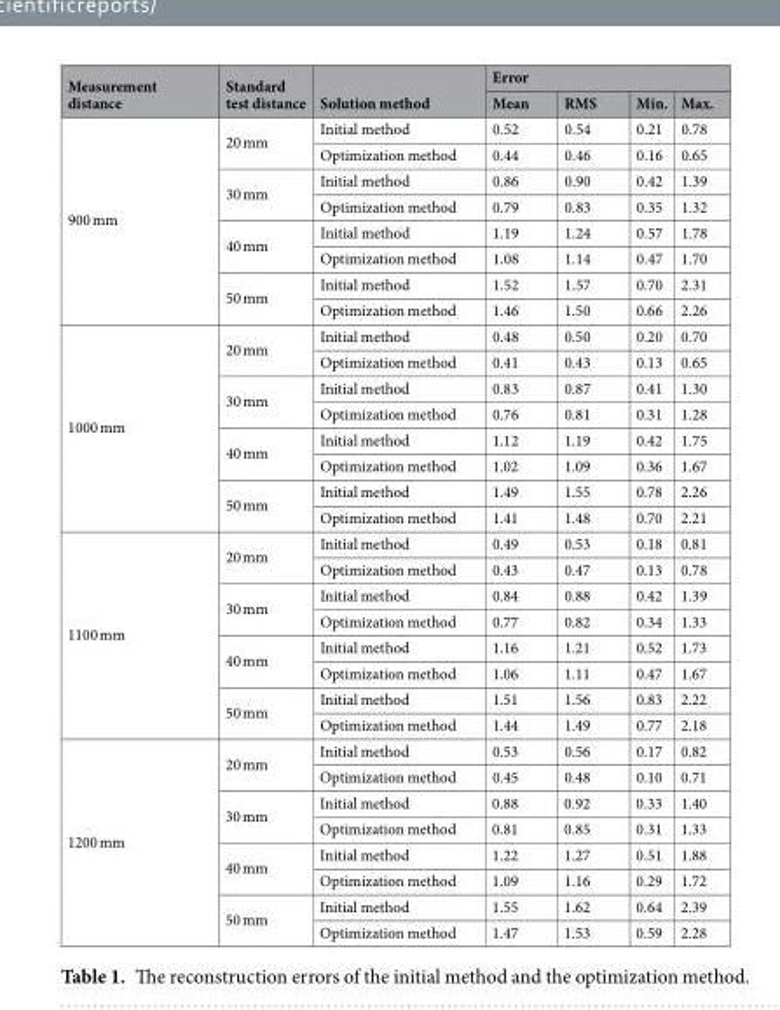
<table><thead><tr><td rowspan="2">Measurement distance</td><td rowspan="2">Standard test distance</td><td rowspan="2">Solution method</td><td colspan="4">Error</td></tr><tr><td>Mean</td><td>RMS</td><td>Min.</td><td>Max.</td></tr></thead><tbody><tr><td rowspan="8">900 mm</td><td rowspan="2">20 mm</td><td>Initial method</td><td>0.52</td><td>0.54</td><td>0.21</td><td>0.78</td></tr><tr><td>Optimization method</td><td>0.44</td><td>0.46</td><td>0.16</td><td>0.65</td></tr><tr><td rowspan="2">30 mm</td><td>Initial method</td><td>0.86</td><td>0.90</td><td>0.42</td><td>1.39</td></tr><tr><td>Optimization method</td><td>0.79</td><td>0.83</td><td>0.35</td><td>1.32</td></tr><tr><td rowspan="2">40 mm</td><td>Initial method</td><td>1.19</td><td>1.24</td><td>0.57</td><td>1.78</td></tr><tr><td>Optimization method</td><td>1.08</td><td>1.14</td><td>0.47</td><td>1.70</td></tr><tr><td rowspan="2">50 mm</td><td>Initial method</td><td>1.52</td><td>1.57</td><td>0.70</td><td>2.31</td></tr><tr><td>Optimization method</td><td>1.46</td><td>1.50</td><td>0.66</td><td>2.26</td></tr><tr><td rowspan="8">1000 mm</td><td rowspan="2">20 mm</td><td>Initial method</td><td>0.48</td><td>0.50</td><td>0.20</td><td>0.70</td></tr><tr><td>Optimization method</td><td>0.41</td><td>0.43</td><td>0.13</td><td>0.65</td></tr><tr><td rowspan="2">30 mm</td><td>Initial method</td><td>0.83</td><td>0.87</td><td>0.41</td><td>1.30</td></tr><tr><td>Optimization method</td><td>0.76</td><td>0.81</td><td>0.31</td><td>1.28</td></tr><tr><td rowspan="2">40 mm</td><td>Initial method</td><td>1.12</td><td>1.19</td><td>0.42</td><td>1.75</td></tr><tr><td>Optimization method</td><td>1.02</td><td>1.09</td><td>0.36</td><td>1.67</td></tr><tr><td rowspan="2">50 mm</td><td>Initial method</td><td>1.49</td><td>1.55</td><td>0.78</td><td>2.26</td></tr><tr><td>Optimization method</td><td>1.41</td><td>1.48</td><td>0.70</td><td>2.21</td></tr><tr><td rowspan="8">1100 mm</td><td rowspan="2">20 mm</td><td>Initial method</td><td>0.49</td><td>0.53</td><td>0.18</td><td>0.81</td></tr><tr><td>Optimization method</td><td>0.43</td><td>0.47</td><td>0.13</td><td>0.78</td></tr><tr><td rowspan="2">30 mm</td><td>Initial method</td><td>0.84</td><td>0.88</td><td>0.42</td><td>1.39</td></tr><tr><td>Optimization method</td><td>0.77</td><td>0.82</td><td>0.34</td><td>1.33</td></tr><tr><td rowspan="2">40 mm</td><td>Initial method</td><td>1.16</td><td>1.21</td><td>0.52</td><td>1.73</td></tr><tr><td>Optimization method</td><td>1.06</td><td>1.11</td><td>0.47</td><td>1.67</td></tr><tr><td rowspan="2">50 mm</td><td>Initial method</td><td>1.51</td><td>1.56</td><td>0.83</td><td>2.22</td></tr><tr><td>Optimization method</td><td>1.44</td><td>1.49</td><td>0.77</td><td>2.18</td></tr><tr><td rowspan="8">1200 mm</td><td rowspan="2">20 mm</td><td>Initial method</td><td>0.53</td><td>0.56</td><td>0.17</td><td>0.82</td></tr><tr><td>Optimization method</td><td>0.45</td><td>0.48</td><td>0.10</td><td>0.71</td></tr><tr><td rowspan="2">30 mm</td><td>Initial method</td><td>0.88</td><td>0.92</td><td>0.33</td><td>1.40</td></tr><tr><td>Optimization method</td><td>0.81</td><td>0.85</td><td>0.31</td><td>1.33</td></tr><tr><td rowspan="2">40 mm</td><td>Initial method</td><td>1.22</td><td>1.27</td><td>0.51</td><td>1.88</td></tr><tr><td>Optimization method</td><td>1.09</td><td>1.16</td><td>0.29</td><td>1.72</td></tr><tr><td rowspan="2">50 mm</td><td>Initial method</td><td>1.55</td><td>1.62</td><td>0.64</td><td>2.39</td></tr><tr><td>Optimization method</td><td>1.47</td><td>1.53</td><td>0.59</td><td>2.28</td></tr></tbody></table>